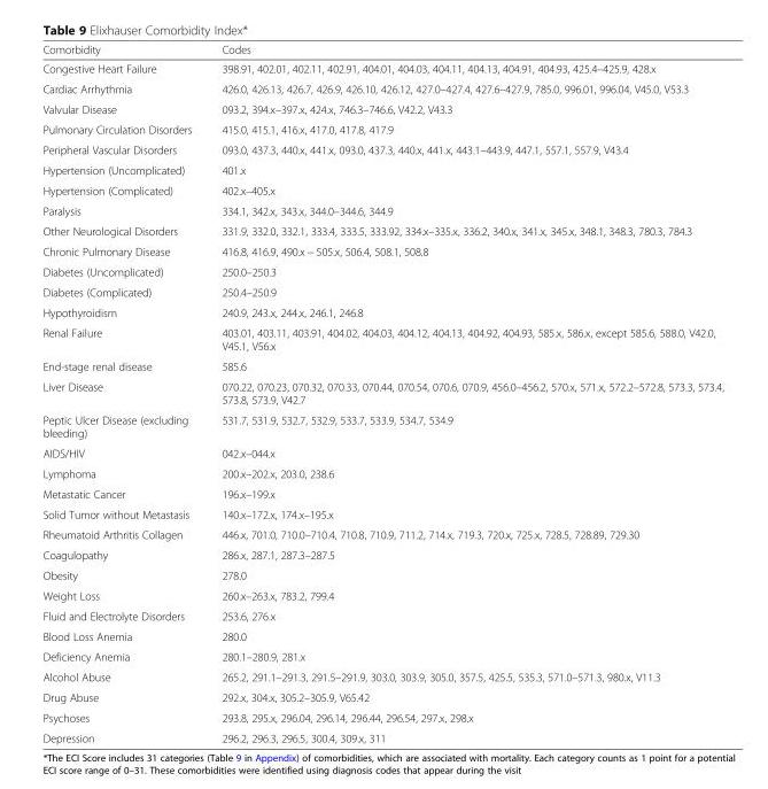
<table><thead><tr><td>Comorbidity</td><td>Codes</td></tr></thead><tbody><tr><td>Congestive Heart Failure</td><td>398.91, 402.01, 402.11, 402.91, 404.01, 404.03, 404.11, 404.13, 404.91, 404.93, 425.4–425.9, 428.x</td></tr><tr><td>Cardiac Arrhythmia</td><td>426.0, 426.13, 426.7, 426.9, 426.10, 426.12, 427.0–427.4, 427.6–427.9, 785.0, 996.01, 996.04, V45.0, V53.3</td></tr><tr><td>Valvular Disease</td><td>093.2, 394.x–397.x, 424.x, 746.3–746.6, V42.2, V43.3</td></tr><tr><td>Pulmonary Circulation Disorders</td><td>415.0, 415.1, 416.x, 417.0, 417.8, 417.9</td></tr><tr><td>Peripheral Vascular Disorders</td><td>093.0, 437.3, 440.x, 441.x, 093.0, 437.3, 440.x, 441.x, 443.1–443.9, 447.1, 557.1, 557.9, V43.4</td></tr><tr><td>Hypertension (Uncomplicated)</td><td>401.x</td></tr><tr><td>Hypertension (Complicated)</td><td>402.x–405.x</td></tr><tr><td>Paralysis</td><td>334.1, 342.x, 343.x, 344.0–344.6, 344.9</td></tr><tr><td>Other Neurological Disorders</td><td>331.9, 332.0, 332.1, 333.4, 333.5, 333.92, 334.x–335.x, 336.2, 340.x, 341.x, 345.x, 348.1, 348.3, 780.3, 784.3</td></tr><tr><td>Chronic Pulmonary Disease</td><td>416.8, 416.9, 490.x − 505.x, 506.4, 508.1, 508.8</td></tr><tr><td>Diabetes (Uncomplicated)</td><td>250.0–250.3</td></tr><tr><td>Diabetes (Complicated)</td><td>250.4–250.9</td></tr><tr><td>Hypothyroidism</td><td>240.9, 243.x, 244.x, 246.1, 246.8</td></tr><tr><td>Renal Failure</td><td>403.01, 403.11, 403.91, 404.02, 404.03, 404.12, 404.13, 404.92, 404.93, 585.x, 586.x, except 585.6, 588.0, V42.0, V45.1, V56.x</td></tr><tr><td>End-stage renal disease</td><td>585.6</td></tr><tr><td>Liver Disease</td><td>070.22, 070.23, 070.32, 070.33, 070.44, 070.54, 070.6, 070.9, 456.0–456.2, 570.x, 571.x, 572.2–572.8, 573.3, 573.4, 573.8, 573.9, V42.7</td></tr><tr><td>Peptic Ulcer Disease (excluding bleeding)</td><td>531.7, 531.9, 532.7, 532.9, 533.7, 533.9, 534.7, 534.9</td></tr><tr><td>AIDS/HIV</td><td>042.x–044.x</td></tr><tr><td>Lymphoma</td><td>200.x–202.x, 203.0, 238.6</td></tr><tr><td>Metastatic Cancer</td><td>196.x–199.x</td></tr><tr><td>Solid Tumor without Metastasis</td><td>140.x–172.x, 174.x–195.x</td></tr><tr><td>Rheumatoid Arthritis Collagen</td><td>446.x, 701.0, 710.0–710.4, 710.8, 710.9, 711.2, 714.x, 719.3, 720.x, 725.x, 728.5, 728.89, 729.30</td></tr><tr><td>Coagulopathy</td><td>286.x, 287.1, 287.3–287.5</td></tr><tr><td>Obesity</td><td>278.0</td></tr><tr><td>Weight Loss</td><td>260.x–263.x, 783.2, 799.4</td></tr><tr><td>Fluid and Electrolyte Disorders</td><td>253.6, 276.x</td></tr><tr><td>Blood Loss Anemia</td><td>280.0</td></tr><tr><td>Deficiency Anemia</td><td>280.1–280.9, 281.x</td></tr><tr><td>Alcohol Abuse</td><td>265.2, 291.1–291.3, 291.5–291.9, 303.0, 303.9, 305.0, 357.5, 425.5, 535.3, 571.0–571.3, 980.x, V11.3</td></tr><tr><td>Drug Abuse</td><td>292.x, 304.x, 305.2–305.9, V65.42</td></tr><tr><td>Psychoses</td><td>293.8, 295.x, 296.04, 296.14, 296.44, 296.54, 297.x, 298.x</td></tr><tr><td>Depression</td><td>296.2, 296.3, 296.5, 300.4, 309.x, 311</td></tr></tbody></table>